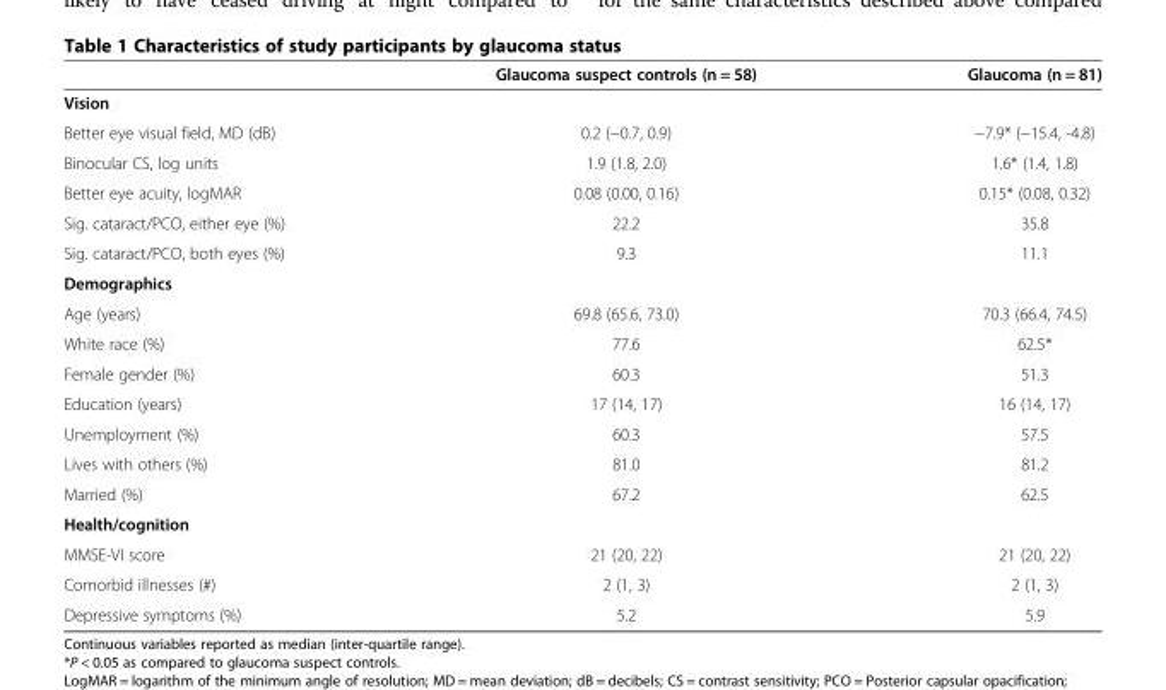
<table><thead><tr><td></td><td>Glaucoma suspect controls (n = 58)</td><td>Glaucoma (n = 81)</td></tr></thead><tbody><tr><td colspan="3">Vision</td></tr><tr><td>Better eye visual field, MD (dB)</td><td>0.2 (−0.7, 0.9)</td><td>−7.9* (−15.4, -4.8)</td></tr><tr><td>Binocular CS, log units</td><td>1.9 (1.8, 2.0)</td><td>1.6* (1.4, 1.8)</td></tr><tr><td>Better eye acuity, logMAR</td><td>0.08 (0.00, 0.16)</td><td>0.15* (0.08, 0.32)</td></tr><tr><td>Sig. cataract/PCO, either eye (%)</td><td>22.2</td><td>35.8</td></tr><tr><td>Sig. cataract/PCO, both eyes (%)</td><td>9.3</td><td>11.1</td></tr><tr><td colspan="3">Demographics</td></tr><tr><td>Age (years)</td><td>69.8 (65.6, 73.0)</td><td>70.3 (66.4, 74.5)</td></tr><tr><td>White race (%)</td><td>77.6</td><td>62.5*</td></tr><tr><td>Female gender (%)</td><td>60.3</td><td>51.3</td></tr><tr><td>Education (years)</td><td>17 (14, 17)</td><td>16 (14, 17)</td></tr><tr><td>Unemployment (%)</td><td>60.3</td><td>57.5</td></tr><tr><td>Lives with others (%)</td><td>81.0</td><td>81.2</td></tr><tr><td>Married (%)</td><td>67.2</td><td>62.5</td></tr><tr><td colspan="3">Health/cognition</td></tr><tr><td>MMSE-VI score</td><td>21 (20, 22)</td><td>21 (20, 22)</td></tr><tr><td>Comorbid illnesses (#)</td><td>2 (1, 3)</td><td>2 (1, 3)</td></tr><tr><td>Depressive symptoms (%)</td><td>5.2</td><td>5.9</td></tr></tbody></table>